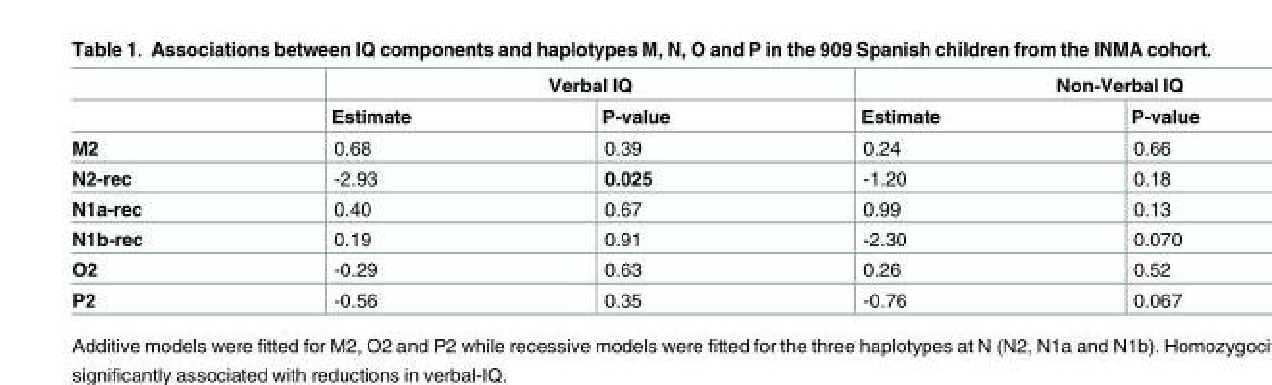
<table><thead><tr><td rowspan="2"></td><td colspan="2">Verbal IQ</td><td colspan="2">Non-Verbal IQ</td></tr><tr><td>Estimate</td><td>P-value</td><td>Estimate</td><td>P-value</td></tr></thead><tbody><tr><td>M2</td><td>0.68</td><td>0.39</td><td>0.24</td><td>0.66</td></tr><tr><td>N2-rec</td><td>-2.93</td><td>0.025</td><td>-1.20</td><td>0.18</td></tr><tr><td>N1a-rec</td><td>0.40</td><td>0.67</td><td>0.99</td><td>0.13</td></tr><tr><td>N1b-rec</td><td>0.19</td><td>0.91</td><td>-2.30</td><td>0.070</td></tr><tr><td>O2</td><td>-0.29</td><td>0.63</td><td>0.26</td><td>0.52</td></tr><tr><td>P2</td><td>-0.56</td><td>0.35</td><td>-0.76</td><td>0.067</td></tr></tbody></table>